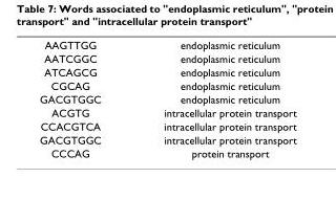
<table><tbody><tr><td>AAGTTGG</td><td>endoplasmic reticulum</td></tr><tr><td>AATCGGC</td><td>endoplasmic reticulum</td></tr><tr><td>ATCAGCG</td><td>endoplasmic reticulum</td></tr><tr><td>CGCAG</td><td>endoplasmic reticulum</td></tr><tr><td>GACGTGGC</td><td>endoplasmic reticulum</td></tr><tr><td>ACGTG</td><td>intracellular protein transport</td></tr><tr><td>CCACGTCA</td><td>intracellular protein transport</td></tr><tr><td>GACGTGGC</td><td>intracellular protein transport</td></tr><tr><td>CCCAG</td><td>protein transport</td></tr></tbody></table>